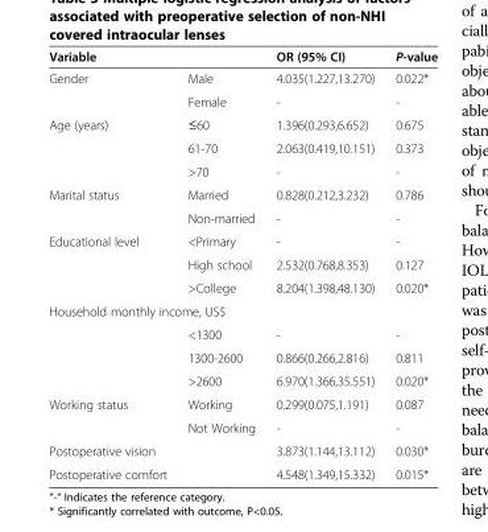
<table><thead><tr><td colspan="2">Variable</td><td rowspan="2">OR (95% CI) 4.035(1.227,13.270)</td><td rowspan="2">P-value 0.022*</td></tr><tr><td>Gender</td><td>Male</td></tr></thead><tbody><tr><td></td><td>Female</td><td>-</td><td>-</td></tr><tr><td rowspan="3">Age (years)</td><td>≤60</td><td>1.396(0.293,6.652)</td><td>0.675</td></tr><tr><td>61-70</td><td>2.063(0.419,10.151)</td><td>0.373</td></tr><tr><td>&gt;70</td><td>-</td><td>-</td></tr><tr><td rowspan="2">Marital status</td><td>Married</td><td>0.828(0.212,3.232)</td><td>0.786</td></tr><tr><td>Non-married</td><td>-</td><td>-</td></tr><tr><td rowspan="3">Educational level</td><td>&lt;Primary</td><td>-</td><td>-</td></tr><tr><td>High school</td><td>2.532(0.768,8.353)</td><td>0.127</td></tr><tr><td>&gt;College</td><td>8.204(1.398,48.130)</td><td>0.020*</td></tr><tr><td colspan="4">Household monthly income, US$</td></tr><tr><td></td><td>&lt;1300</td><td>-</td><td>-</td></tr><tr><td></td><td>1300-2600</td><td>0.866(0.266,2.816)</td><td>0.811</td></tr><tr><td></td><td>&gt;2600</td><td>6.970(1.366,35.551)</td><td>0.020*</td></tr><tr><td rowspan="2">Working status</td><td>Working</td><td>0.299(0.075,1.191)</td><td>0.087</td></tr><tr><td>Not Working</td><td>-</td><td>-</td></tr><tr><td>Postoperative vision</td><td></td><td>3.873(1.144,13.112)</td><td>0.030*</td></tr><tr><td>Postoperative comfort</td><td></td><td>4.548(1.349,15.332)</td><td>0.015*</td></tr></tbody></table>